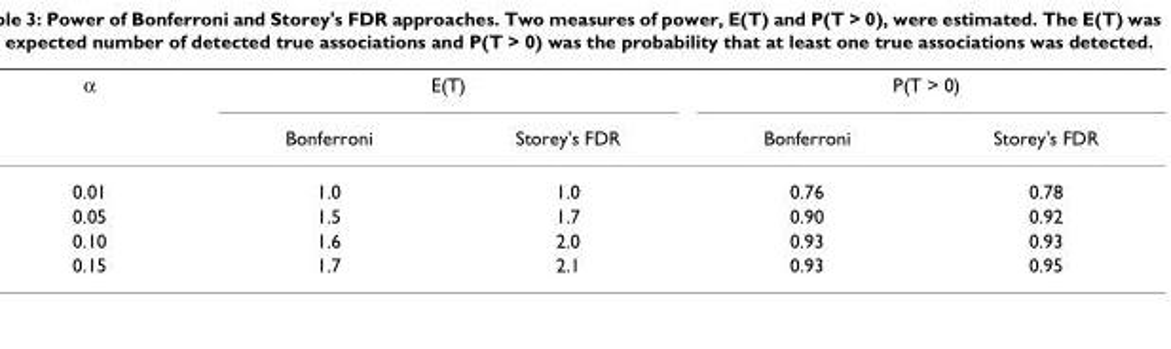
<table><thead><tr><td rowspan="2">α</td><td colspan="2">E(T)</td><td colspan="2">P(T &gt; 0)</td></tr><tr><td>Bonferroni</td><td>Storey&#x27;s FDR</td><td>Bonferroni</td><td>Storey&#x27;s FDR</td></tr></thead><tbody><tr><td>0.01</td><td>1.0</td><td>1.0</td><td>0.76</td><td>0.78</td></tr><tr><td>0.05</td><td>1.5</td><td>1.7</td><td>0.90</td><td>0.92</td></tr><tr><td>0.10</td><td>1.6</td><td>2.0</td><td>0.93</td><td>0.93</td></tr><tr><td>0.15</td><td>1.7</td><td>2.1</td><td>0.93</td><td>0.95</td></tr></tbody></table>